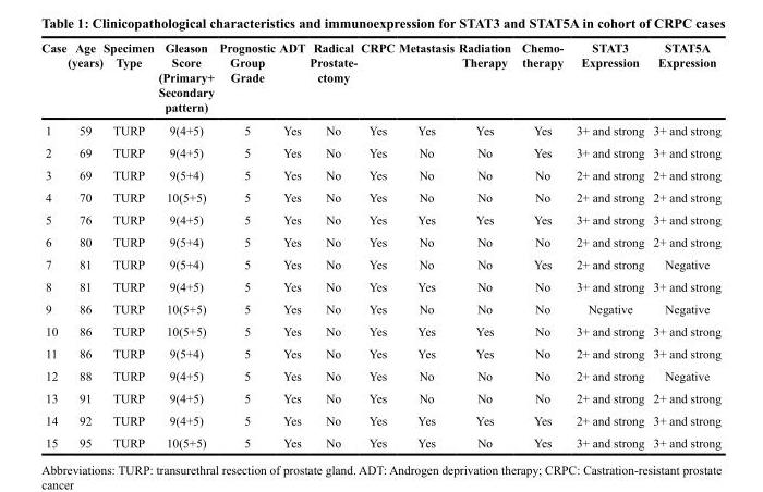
<table><thead><tr><td>Case</td><td>Age (years)</td><td>Specimen Type</td><td>Gleason Score (Primary+ Secondary pattern)</td><td>Prognostic Group Grade</td><td>ADT</td><td>Radical Prostate- ctomy</td><td>CRPC</td><td>Metastasis</td><td>Radiation Therapy</td><td>Chemo- therapy</td><td>STAT3 Expression</td><td>STAT5A Expression</td></tr></thead><tbody><tr><td>1</td><td>59</td><td>TURP</td><td>9(4+5)</td><td>5</td><td>Yes</td><td>No</td><td>Yes</td><td>Yes</td><td>Yes</td><td>Yes</td><td>3+ and strong</td><td>3+ and strong</td></tr><tr><td>2</td><td>69</td><td>TURP</td><td>9(4+5)</td><td>5</td><td>Yes</td><td>No</td><td>Yes</td><td>No</td><td>No</td><td>Yes</td><td>3+ and strong</td><td>3+ and strong</td></tr><tr><td>3</td><td>69</td><td>TURP</td><td>9(5+4)</td><td>5</td><td>Yes</td><td>No</td><td>Yes</td><td>No</td><td>No</td><td>No</td><td>2+ and strong</td><td>2+ and strong</td></tr><tr><td>4</td><td>70</td><td>TURP</td><td>10(5+5)</td><td>5</td><td>Yes</td><td>No</td><td>Yes</td><td>No</td><td>No</td><td>No</td><td>2+ and strong</td><td>2+ and strong</td></tr><tr><td>5</td><td>76</td><td>TURP</td><td>9(4+5)</td><td>5</td><td>Yes</td><td>No</td><td>Yes</td><td>Yes</td><td>Yes</td><td>Yes</td><td>3+ and strong</td><td>3+ and strong</td></tr><tr><td>6</td><td>80</td><td>TURP</td><td>9(5+4)</td><td>5</td><td>Yes</td><td>No</td><td>Yes</td><td>No</td><td>No</td><td>No</td><td>2+ and strong</td><td>2+ and strong</td></tr><tr><td>7</td><td>81</td><td>TURP</td><td>9(5+4)</td><td>5</td><td>Yes</td><td>No</td><td>Yes</td><td>No</td><td>No</td><td>Yes</td><td>2+ and strong</td><td>Negative</td></tr><tr><td>8</td><td>81</td><td>TURP</td><td>9(4+5)</td><td>5</td><td>Yes</td><td>No</td><td>Yes</td><td>Yes</td><td>No</td><td>No</td><td>3+ and strong</td><td>3+ and strong</td></tr><tr><td>9</td><td>86</td><td>TURP</td><td>10(5+5)</td><td>5</td><td>Yes</td><td>No</td><td>Yes</td><td>No</td><td>No</td><td>No</td><td>Negative</td><td>Negative</td></tr><tr><td>10</td><td>86</td><td>TURP</td><td>10(5+5)</td><td>5</td><td>Yes</td><td>No</td><td>Yes</td><td>Yes</td><td>Yes</td><td>No</td><td>3+ and strong</td><td>3+ and strong</td></tr><tr><td>11</td><td>86</td><td>TURP</td><td>9(5+4)</td><td>5</td><td>Yes</td><td>No</td><td>Yes</td><td>Yes</td><td>Yes</td><td>No</td><td>2+ and strong</td><td>3+ and strong</td></tr><tr><td>12</td><td>88</td><td>TURP</td><td>9(4+5)</td><td>5</td><td>Yes</td><td>No</td><td>Yes</td><td>No</td><td>No</td><td>No</td><td>2+ and strong</td><td>Negative</td></tr><tr><td>13</td><td>91</td><td>TURP</td><td>9(4+5)</td><td>5</td><td>Yes</td><td>No</td><td>Yes</td><td>No</td><td>No</td><td>No</td><td>2+ and strong</td><td>2+ and strong</td></tr><tr><td>14</td><td>92</td><td>TURP</td><td>9(4+5)</td><td>5</td><td>Yes</td><td>No</td><td>Yes</td><td>Yes</td><td>Yes</td><td>Yes</td><td>2+ and strong</td><td>3+ and strong</td></tr><tr><td>15</td><td>95</td><td>TURP</td><td>10(5+5)</td><td>5</td><td>Yes</td><td>No</td><td>Yes</td><td>Yes</td><td>No</td><td>Yes</td><td>3+ and strong</td><td>3+ and strong</td></tr></tbody></table>